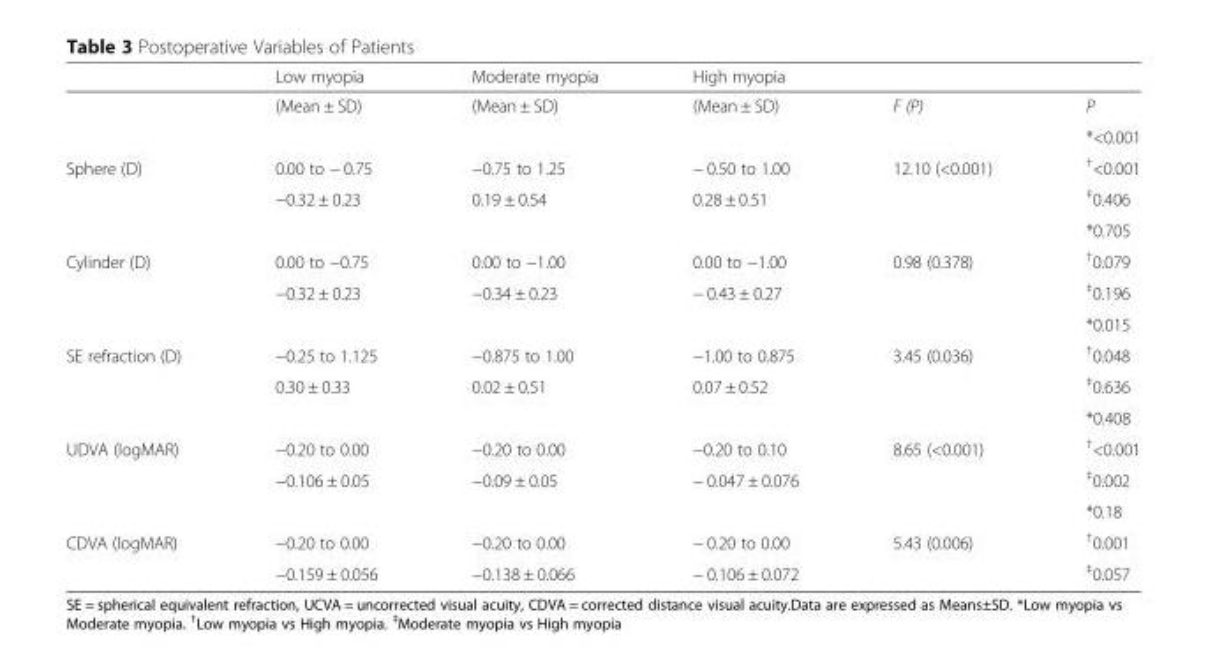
<table><thead><tr><td></td><td>Low myopia</td><td>Moderate myopia</td><td>High myopia</td><td></td><td></td></tr></thead><tbody><tr><td></td><td>(Mean ± SD)</td><td>(Mean ± SD)</td><td>(Mean ± SD)</td><td>F (P)</td><td>P</td></tr><tr><td></td><td></td><td></td><td></td><td></td><td>*&lt;0.001</td></tr><tr><td rowspan="3">Sphere (D)</td><td>0.00 to − 0.75</td><td>−0.75 to 1.25</td><td>− 0.50 to 1.00</td><td>12.10 (&lt;0.001)</td><td><sup>†</sup>&lt;0.001</td></tr><tr><td>−0.32 ± 0.23</td><td>0.19 ± 0.54</td><td>0.28 ± 0.51</td><td></td><td><sup>‡</sup>0.406</td></tr><tr><td></td><td></td><td></td><td></td><td>*0.705</td></tr><tr><td rowspan="3">Cylinder (D)</td><td>0.00 to −0.75</td><td>0.00 to −1.00</td><td>0.00 to −1.00</td><td>0.98 (0.378)</td><td><sup>†</sup>0.079</td></tr><tr><td>−0.32 ± 0.23</td><td>−0.34 ± 0.23</td><td>− 0.43 ± 0.27</td><td></td><td><sup>‡</sup>0.196</td></tr><tr><td></td><td></td><td></td><td></td><td>*0.015</td></tr><tr><td rowspan="3">SE refraction (D)</td><td>−0.25 to 1.125</td><td>−0.875 to 1.00</td><td>−1.00 to 0.875</td><td>3.45 (0.036)</td><td><sup>†</sup>0.048</td></tr><tr><td>0.30 ± 0.33</td><td>0.02 ± 0.51</td><td>0.07 ± 0.52</td><td></td><td><sup>‡</sup>0.636</td></tr><tr><td></td><td></td><td></td><td></td><td>*0.408</td></tr><tr><td rowspan="3">UDVA (logMAR)</td><td>−0.20 to 0.00</td><td>−0.20 to 0.00</td><td>−0.20 to 0.10</td><td>8.65 (&lt;0.001)</td><td><sup>†</sup>&lt;0.001</td></tr><tr><td>−0.106 ± 0.05</td><td>−0.09 ± 0.05</td><td>− 0.047 ± 0.076</td><td></td><td><sup>‡</sup>0.002</td></tr><tr><td></td><td></td><td></td><td></td><td>*0.18</td></tr><tr><td rowspan="2">CDVA (logMAR)</td><td>−0.20 to 0.00</td><td>−0.20 to 0.00</td><td>− 0.20 to 0.00</td><td>5.43 (0.006)</td><td><sup>†</sup>0.001</td></tr><tr><td>−0.159 ± 0.056</td><td>−0.138 ± 0.066</td><td>− 0.106 ± 0.072</td><td></td><td><sup>‡</sup>0.057</td></tr></tbody></table>